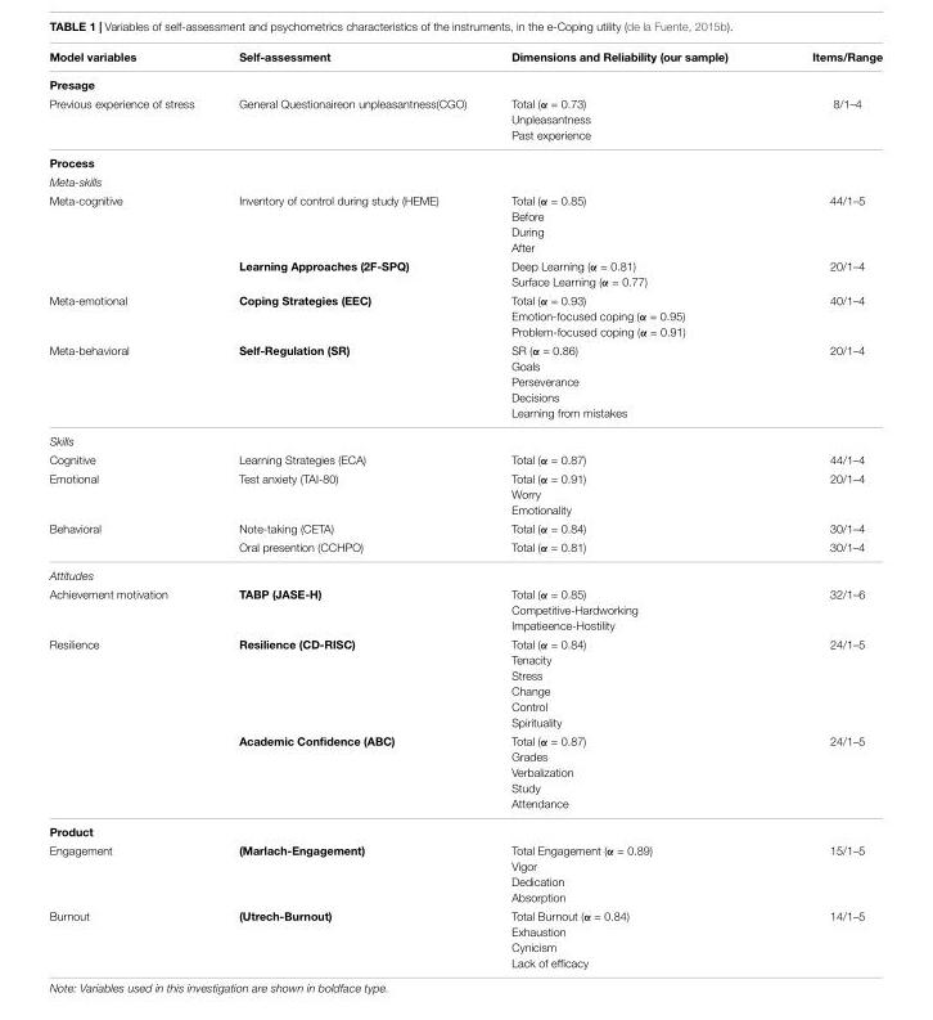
<table><thead><tr><td>Model variables</td><td>Self-assessment</td><td>Dimensions and Reliability (our sample)</td><td>Items/Range</td></tr></thead><tbody><tr><td colspan="4">Presage</td></tr><tr><td>Previous experience of stress</td><td>General Questionaireon unpleasantness(CGO)</td><td>Total (α = 0.73) Unpleasantness Past experience</td><td>8/1–4</td></tr><tr><td colspan="4">Process</td></tr><tr><td colspan="4">Meta-skills</td></tr><tr><td rowspan="2">Meta-cognitive</td><td>Inventory of control during study (HEME)</td><td>Total (α = 0.85) Before During After</td><td>44/1–5</td></tr><tr><td>Learning Approaches (2F-SPQ)</td><td>Deep Learning (α = 0.81) Surface Learning (α = 0.77)</td><td>20/1–4</td></tr><tr><td>Meta-emotional</td><td>Coping Strategies (EEC)</td><td>Total (α = 0.93) Emotion-focused coping (α = 0.95) Problem-focused coping (α = 0.91)</td><td>40/1–4</td></tr><tr><td>Meta-behavioral</td><td>Self-Regulation (SR)</td><td>SR (α = 0.86) Goals Perseverance Decisions Learning from mistakes</td><td>20/1–4</td></tr><tr><td colspan="4">Skills</td></tr><tr><td>Cognitive</td><td>Learning Strategies (ECA)</td><td>Total (α = 0.87)</td><td>44/1–4</td></tr><tr><td>Emotional</td><td>Test anxiety (TAI-80)</td><td>Total (α = 0.91) Worry Emotionality</td><td>20/1–4</td></tr><tr><td rowspan="2">Behavioral</td><td>Note-taking (CETA)</td><td>Total (α = 0.84)</td><td>30/1–4</td></tr><tr><td>Oral presention (CCHPO)</td><td>Total (α = 0.81)</td><td>30/1–4</td></tr><tr><td colspan="4">Attitudes</td></tr><tr><td>Achievement motivation</td><td>TABP (JASE-H)</td><td>Total (α = 0.85) Competitive-Hardworking Impatieence-Hostility</td><td>32/1–6</td></tr><tr><td rowspan="2">Resilience</td><td>Resilience (CD-RISC)</td><td>Total (α = 0.84) Tenacity Stress Change Control Spirituality</td><td>24/1–5</td></tr><tr><td>Academic Confidence (ABC)</td><td>Total (α = 0.87) Grades Verbalization Study Attendance</td><td>24/1–5</td></tr><tr><td colspan="4">Product</td></tr><tr><td>Engagement</td><td>(Marlach-Engagement)</td><td>Total Engagement (α = 0.89) Vigor Dedication Absorption</td><td>15/1–5</td></tr><tr><td>Burnout</td><td>(Utrech-Burnout)</td><td>Total Burnout (α = 0.84) Exhaustion Cynicism Lack of efficacy</td><td>14/1–5</td></tr></tbody></table>